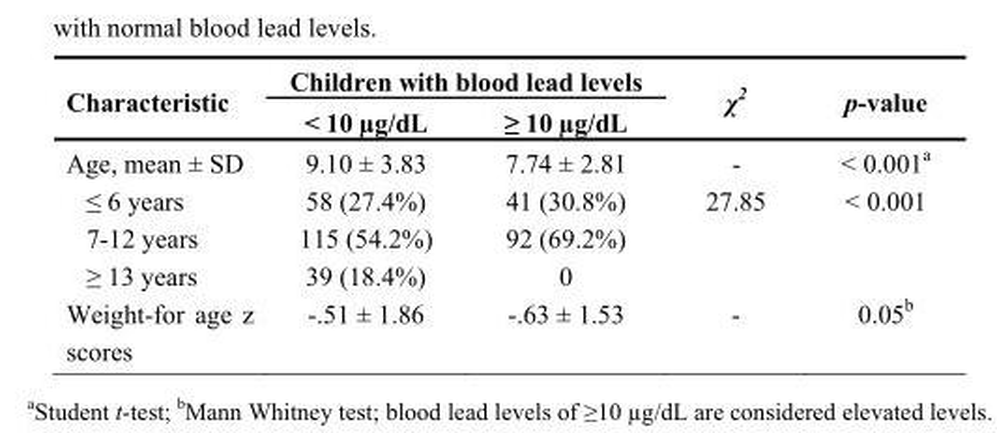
<table><thead><tr><td rowspan="2">Characteristic</td><td colspan="2">Children with blood lead levels</td><td rowspan="2">χ<sup>2</sup></td><td rowspan="2">p-value</td></tr><tr><td>&lt; 10 µg/dL</td><td>≥ 10 µg/dL</td></tr></thead><tbody><tr><td>Age, mean ± SD</td><td>9.10 ± 3.83</td><td>7.74 ± 2.81</td><td>-</td><td>&lt; 0.001<sup>a</sup></td></tr><tr><td>≤ 6 years</td><td>58 (27.4%)</td><td>41 (30.8%)</td><td>27.85</td><td>&lt; 0.001</td></tr><tr><td>7-12 years</td><td>115 (54.2%)</td><td>92 (69.2%)</td><td></td><td></td></tr><tr><td>≥ 13 years</td><td>39 (18.4%)</td><td>0</td><td></td><td></td></tr><tr><td>Weight-for age z scores</td><td>-.51 ± 1.86</td><td>-.63 ± 1.53</td><td>-</td><td>0.05<sup>b</sup></td></tr></tbody></table>